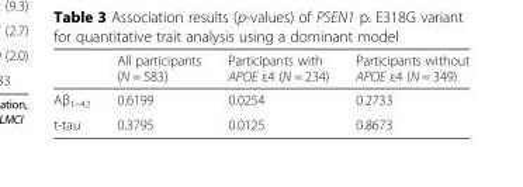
<table><thead><tr><td></td><td>All participants (N = 583)</td><td>Participants with APOE ε4 (N = 234)</td><td>Participants without APOE ε4 (N = 349)</td></tr></thead><tbody><tr><td>Aβ<sub>1–42</sub></td><td>0.6199</td><td>0.0254</td><td>0.2733</td></tr><tr><td>t-tau</td><td>0.3795</td><td>0.0125</td><td>0.8673</td></tr></tbody></table>